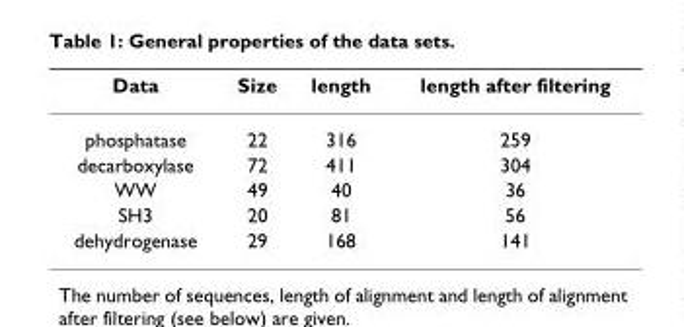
<table><thead><tr><td>Data</td><td>Size</td><td>length</td><td>length after filtering</td></tr></thead><tbody><tr><td>phosphatase</td><td>22</td><td>316</td><td>259</td></tr><tr><td>decarboxylase</td><td>72</td><td>411</td><td>304</td></tr><tr><td>WW</td><td>49</td><td>40</td><td>36</td></tr><tr><td>SH3</td><td>20</td><td>81</td><td>56</td></tr><tr><td>dehydrogenase</td><td>29</td><td>168</td><td>141</td></tr></tbody></table>